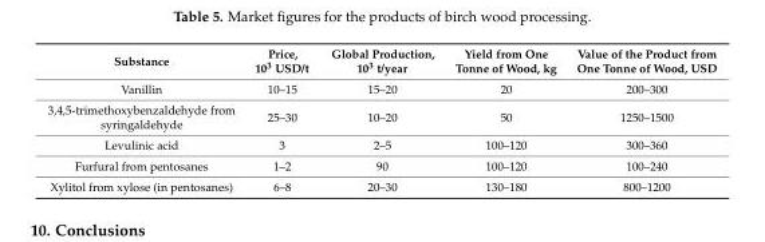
<table><thead><tr><td>Substance</td><td>Price, 103 USD/t</td><td>Global Production, 103 t/year</td><td>Yield from One Tonne of Wood, kg</td><td>Value of the Product from One Tonne of Wood, USD</td></tr></thead><tbody><tr><td>Vanillin</td><td>10–15</td><td>15–20</td><td>20</td><td>200–300</td></tr><tr><td>3,4,5-trimethoxybenzaldehyde from syringaldehyde</td><td>25–30</td><td>10–20</td><td>50</td><td>1250–1500</td></tr><tr><td>Levulinic acid</td><td>3</td><td>2–5</td><td>100–120</td><td>300–360</td></tr><tr><td>Furfural from pentosanes</td><td>1–2</td><td>90</td><td>100–120</td><td>100–240</td></tr><tr><td>Xylitol from xylose (in pentosanes)</td><td>6–8</td><td>20–30</td><td>130–180</td><td>800–1200</td></tr></tbody></table>